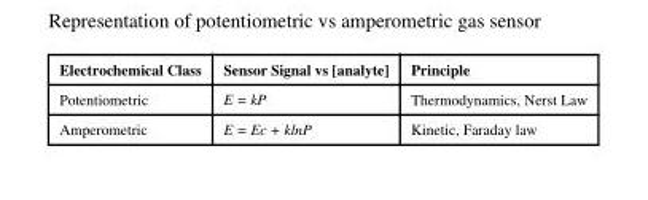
<table><thead><tr><td>Electrochemical Class</td><td>Sensor Signal vs [analyte]</td><td>Principle</td></tr></thead><tbody><tr><td>Potentiometric</td><td>E = kP</td><td>Thermodynamics, Nerst Law</td></tr><tr><td>Amperometric</td><td>E = Ec + klnP</td><td>Kinetic, Faraday law</td></tr></tbody></table>